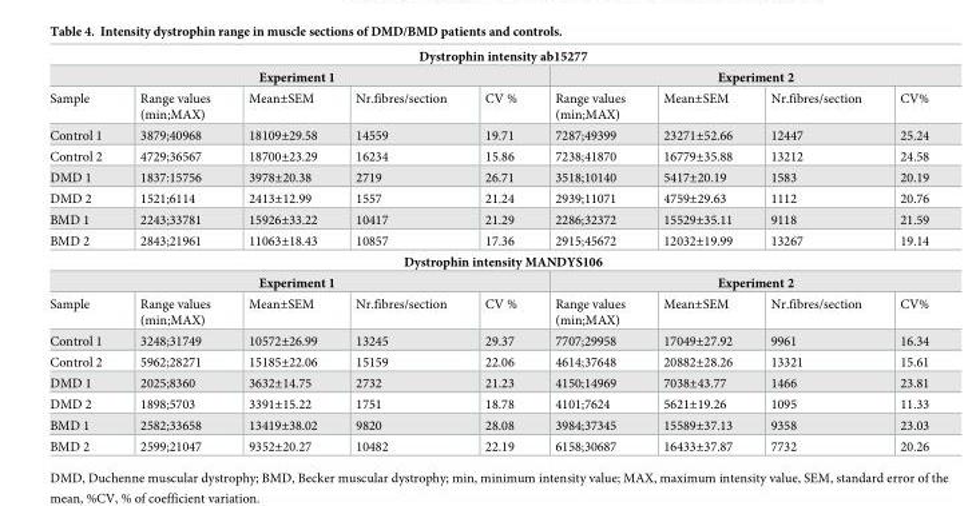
<table><tbody><tr><td colspan="9">Dystrophin intensity ab15277</td></tr><tr><td colspan="5">Experiment 1</td><td colspan="4">Experiment 2</td></tr><tr><td>Sample</td><td>Range values (min;MAX)</td><td>Mean±SEM</td><td>Nr.fibres/section</td><td>CV %</td><td>Range values (min;MAX)</td><td>Mean±SEM</td><td>Nr.fibres/section</td><td>CV%</td></tr><tr><td>Control 1</td><td>3879;40968</td><td>18109±29.58</td><td>14559</td><td>19.71</td><td>7287;49399</td><td>23271±52.66</td><td>12447</td><td>25.24</td></tr><tr><td>Control 2</td><td>4729;36567</td><td>18700±23.29</td><td>16234</td><td>15.86</td><td>7238;41870</td><td>16779±35.88</td><td>13212</td><td>24.58</td></tr><tr><td>DMD 1</td><td>1837:15756</td><td>3978±20.38</td><td>2719</td><td>26.71</td><td>3518;10140</td><td>5417±20.19</td><td>1583</td><td>20.19</td></tr><tr><td>DMD 2</td><td>1521;6114</td><td>2413±12.99</td><td>1557</td><td>21.24</td><td>2939;11071</td><td>4759±29.63</td><td>1112</td><td>20.76</td></tr><tr><td>BMD 1</td><td>2243;33781</td><td>15926±33.22</td><td>10417</td><td>21.29</td><td>2286;32372</td><td>15529±35.11</td><td>9118</td><td>21.59</td></tr><tr><td>BMD 2</td><td>2843;21961</td><td>11063±18.43</td><td>10857</td><td>17.36</td><td>2915;45672</td><td>12032±19.99</td><td>13267</td><td>19.14</td></tr><tr><td colspan="9">Dystrophin intensity MANDYS106</td></tr><tr><td colspan="5">Experiment 1</td><td colspan="4">Experiment 2</td></tr><tr><td>Sample</td><td>Range values (min;MAX)</td><td>Mean±SEM</td><td>Nr.fibres/section</td><td>CV %</td><td>Range values (min;MAX)</td><td>Mean±SEM</td><td>Nr.fibres/section</td><td>CV%</td></tr><tr><td>Control 1</td><td>3248;31749</td><td>10572±26.99</td><td>13245</td><td>29.37</td><td>7707;29958</td><td>17049±27.92</td><td>9961</td><td>16.34</td></tr><tr><td>Control 2</td><td>5962;28271</td><td>15185±22.06</td><td>15159</td><td>22.06</td><td>4614;37648</td><td>20882±28.26</td><td>13321</td><td>15.61</td></tr><tr><td>DMD 1</td><td>2025;8360</td><td>3632±14.75</td><td>2732</td><td>21.23</td><td>4150;14969</td><td>7038±43.77</td><td>1466</td><td>23.81</td></tr><tr><td>DMD 2</td><td>1898;5703</td><td>3391±15.22</td><td>1751</td><td>18.78</td><td>4101;7624</td><td>5621±19.26</td><td>1095</td><td>11.33</td></tr><tr><td>BMD 1</td><td>2582;33658</td><td>13419±38.02</td><td>9820</td><td>28.08</td><td>3984;37345</td><td>15589±37.13</td><td>9358</td><td>23.03</td></tr><tr><td>BMD 2</td><td>2599;21047</td><td>9352±20.27</td><td>10482</td><td>22.19</td><td>6158;30687</td><td>16433±37.87</td><td>7732</td><td>20.26</td></tr></tbody></table>